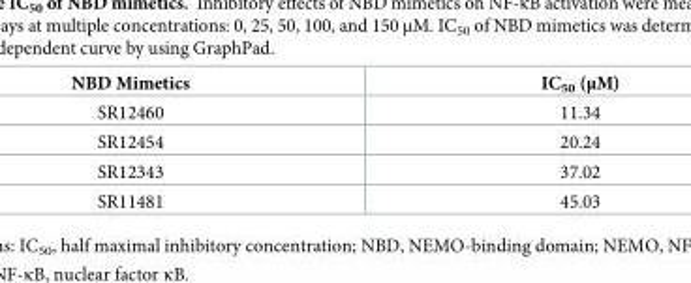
<table><thead><tr><td>NBD Mimetics</td><td>IC<sub>50</sub> (μM)</td></tr></thead><tbody><tr><td>SR12460</td><td>11.34</td></tr><tr><td>SR12454</td><td>20.24</td></tr><tr><td>SR12343</td><td>37.02</td></tr><tr><td>SR11481</td><td>45.03</td></tr></tbody></table>